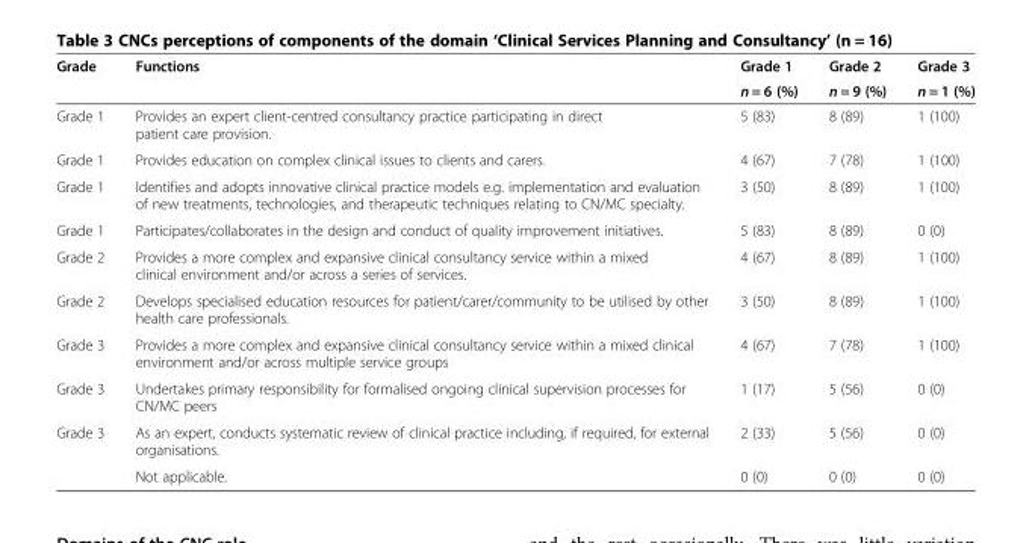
<table><thead><tr><td rowspan="2">Grade</td><td rowspan="2">Functions</td><td rowspan="2">Grade 1 n = 6 (%)</td><td rowspan="2">Grade 2 n = 9 (%)</td><td rowspan="2">Grade 3 n = 1 (%)</td></tr><tr></tr></thead><tbody><tr><td>Grade 1</td><td>Provides an expert client-centred consultancy practice participating in direct patient care provision.</td><td>5 (83)</td><td>8 (89)</td><td>1 (100)</td></tr><tr><td>Grade 1</td><td>Provides education on complex clinical issues to clients and carers.</td><td>4 (67)</td><td>7 (78)</td><td>1 (100)</td></tr><tr><td>Grade 1</td><td>Identifies and adopts innovative clinical practice models e.g. implementation and evaluation of new treatments, technologies, and therapeutic techniques relating to CN/MC specialty.</td><td>3 (50)</td><td>8 (89)</td><td>1 (100)</td></tr><tr><td>Grade 1</td><td>Participates/collaborates in the design and conduct of quality improvement initiatives.</td><td>5 (83)</td><td>8 (89)</td><td>0 (0)</td></tr><tr><td>Grade 2</td><td>Provides a more complex and expansive clinical consultancy service within a mixed clinical environment and/or across a series of services.</td><td>4 (67)</td><td>8 (89)</td><td>1 (100)</td></tr><tr><td>Grade 2</td><td>Develops specialised education resources for patient/carer/community to be utilised by other health care professionals.</td><td>3 (50)</td><td>8 (89)</td><td>1 (100)</td></tr><tr><td>Grade 3</td><td>Provides a more complex and expansive clinical consultancy service within a mixed clinical environment and/or across multiple service groups</td><td>4 (67)</td><td>7 (78)</td><td>1 (100)</td></tr><tr><td>Grade 3</td><td>Undertakes primary responsibility for formalised ongoing clinical supervision processes for CN/MC peers</td><td>1 (17)</td><td>5 (56)</td><td>0 (0)</td></tr><tr><td rowspan="2">Grade 3</td><td>As an expert, conducts systematic review of clinical practice including, if required, for external organisations.</td><td>2 (33)</td><td>5 (56)</td><td>0 (0)</td></tr><tr><td>Not applicable.</td><td>0 (0)</td><td>0 (0)</td><td>0 (0)</td></tr></tbody></table>